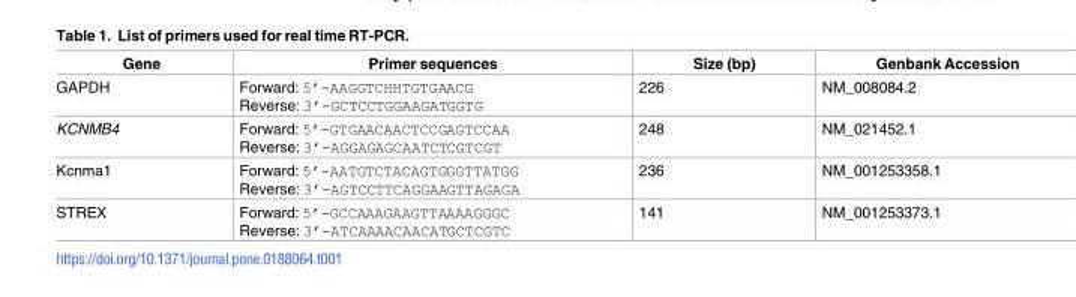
<table><thead><tr><td>Gene</td><td>Primer sequences</td><td>Size (bp)</td><td>Genbank Accession</td></tr></thead><tbody><tr><td>GAPDH</td><td>Forward: 5’-AAGGTCHHTGTGAACG Reverse: 3’-GCTCCTGGAAGATGGTG</td><td>226</td><td>NM_008084.2</td></tr><tr><td>KCNMB4</td><td>Forward: 5’-GTGAACAACTCCGAGTCCAA Reverse: 3’-AGGAGAGCAATCTCGTCGT</td><td>248</td><td>NM_021452.1</td></tr><tr><td>Kcnma1</td><td>Forward: 5’-AATGTCTACAGTGGGTTATGG Reverse: 3’-AGTCCTTCAGGAAGTTAGAGA</td><td>236</td><td>NM_001253358.1</td></tr><tr><td>STREX</td><td>Forward: 5’-GCCAAAGAAGTTAAAAGGGC Reverse: 3’-ATCAAAACAACATGCTCGTC</td><td>141</td><td>NM_001253373.1</td></tr></tbody></table>